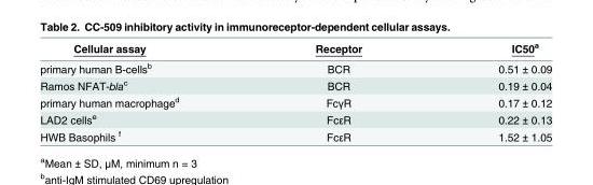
<table><thead><tr><td>Cellular assay</td><td>Receptor</td><td>IC50<sup>a</sup></td></tr></thead><tbody><tr><td>primary human B-cells<sup>b</sup></td><td>BCR</td><td>0.51 ± 0.09</td></tr><tr><td>Ramos NFAT-bla<sup>c</sup></td><td>BCR</td><td>0.19 ± 0.04</td></tr><tr><td>primary human macrophage<sup>d</sup></td><td>FcγR</td><td>0.17 ± 0.12</td></tr><tr><td>LAD2 cells<sup>e</sup></td><td>FcεR</td><td>0.22 ± 0.13</td></tr><tr><td>HWB Basophils <sup>f</sup></td><td>FcεR</td><td>1.52 ± 1.05</td></tr></tbody></table>